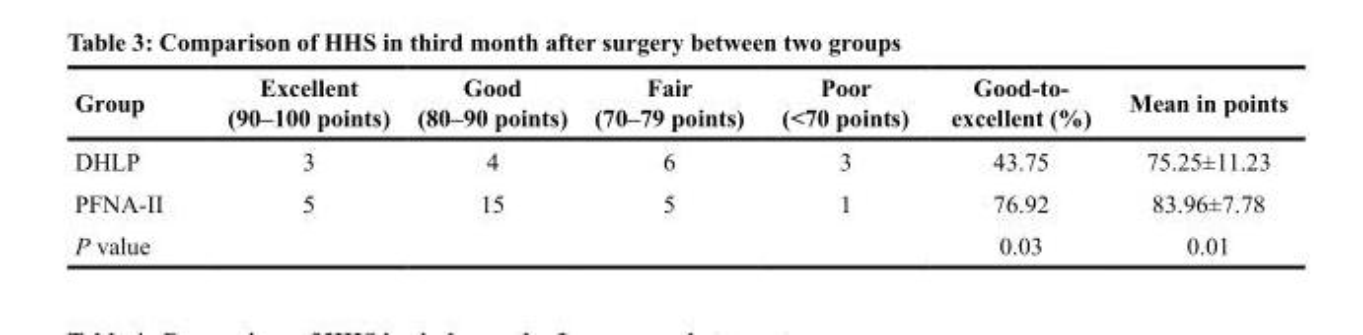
<table><thead><tr><td>Group</td><td>Excellent (90–100 points)</td><td>Good (80–90 points)</td><td>Fair (70–79 points)</td><td>Poor (&lt;70 points)</td><td>Good-to- excellent (%)</td><td>Mean in points</td></tr></thead><tbody><tr><td>DHLP</td><td>3</td><td>4</td><td>6</td><td>3</td><td>43.75</td><td>75.25±11.23</td></tr><tr><td>PFNA-II</td><td>5</td><td>15</td><td>5</td><td>1</td><td>76.92</td><td>83.96±7.78</td></tr><tr><td>P value</td><td></td><td></td><td></td><td></td><td>0.03</td><td>0.01</td></tr></tbody></table>